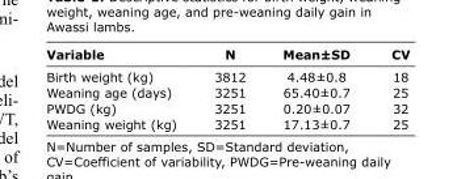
<table><thead><tr><td>Variable</td><td>N</td><td>Mean±SD</td><td>CV</td></tr></thead><tbody><tr><td>Birth weight (kg)</td><td>3812</td><td>4.48±0.8</td><td>18</td></tr><tr><td>Weaning age (days)</td><td>3251</td><td>65.40±0.7</td><td>25</td></tr><tr><td>PWDG (kg)</td><td>3251</td><td>0.20±0.07</td><td>32</td></tr><tr><td>Weaning weight (kg)</td><td>3251</td><td>17.13±0.7</td><td>25</td></tr></tbody></table>